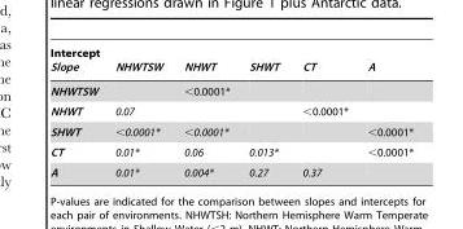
<table><thead><tr><td>Intercept Slope</td><td>NHWTSW</td><td>NHWT</td><td>SHWT</td><td>CT</td><td>A</td></tr></thead><tbody><tr><td>NHWTSW</td><td></td><td>&lt;0.0001*</td><td></td><td></td><td></td></tr><tr><td>NHWT</td><td>0.07</td><td></td><td></td><td>&lt;0.0001*</td><td></td></tr><tr><td>SHWT</td><td>&lt;0.0001*</td><td>&lt;0.0001*</td><td></td><td></td><td>&lt;0.0001*</td></tr><tr><td>CT</td><td>0.01*</td><td>0.06</td><td>0.013*</td><td></td><td>&lt;0.0001*</td></tr><tr><td>A</td><td>0.01*</td><td>0.004*</td><td>0.27</td><td>0.37</td><td></td></tr></tbody></table>